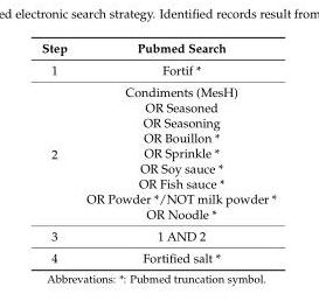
<table><thead><tr><td>Step</td><td>Pubmed Search</td></tr></thead><tbody><tr><td>1</td><td>Fortif *</td></tr><tr><td rowspan="9">2</td><td>Condiments (MesH)</td></tr><tr><td>OR Seasoned</td></tr><tr><td>OR Seasoning</td></tr><tr><td>OR Bouillon *</td></tr><tr><td>OR Sprinkle *</td></tr><tr><td>OR Soy sauce *</td></tr><tr><td>OR Fish sauce *</td></tr><tr><td>OR Powder */NOT milk powder *</td></tr><tr><td>OR Noodle *</td></tr><tr><td>3</td><td>1 AND 2</td></tr><tr><td>4</td><td>Fortified salt *</td></tr></tbody></table>